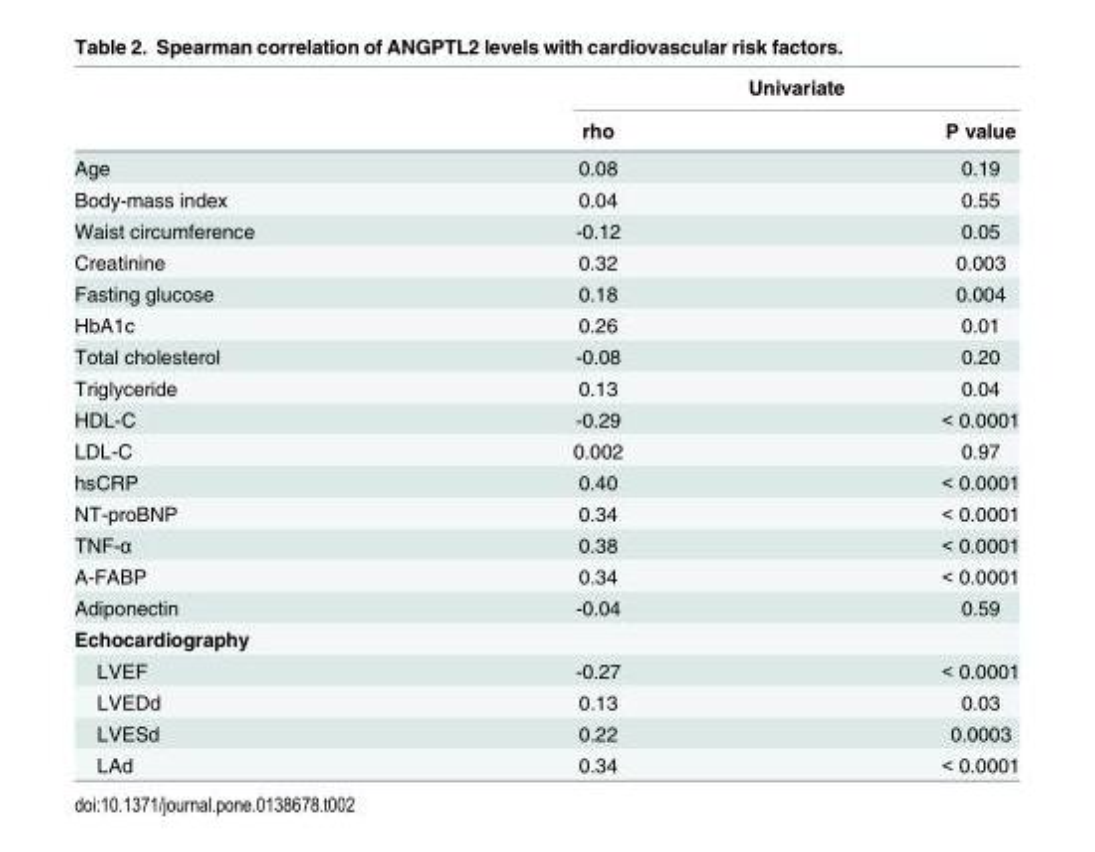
<table><thead><tr><td rowspan="2"></td><td colspan="2">Univariate</td></tr><tr><td>rho</td><td>P value</td></tr></thead><tbody><tr><td>Age</td><td>0.08</td><td>0.19</td></tr><tr><td>Body-mass index</td><td>0.04</td><td>0.55</td></tr><tr><td>Waist circumference</td><td>-0.12</td><td>0.05</td></tr><tr><td>Creatinine</td><td>0.32</td><td>0.003</td></tr><tr><td>Fasting glucose</td><td>0.18</td><td>0.004</td></tr><tr><td>HbA1c</td><td>0.26</td><td>0.01</td></tr><tr><td>Total cholesterol</td><td>-0.08</td><td>0.20</td></tr><tr><td>Triglyceride</td><td>0.13</td><td>0.04</td></tr><tr><td>HDL-C</td><td>-0.29</td><td>&lt; 0.0001</td></tr><tr><td>LDL-C</td><td>0.002</td><td>0.97</td></tr><tr><td>hsCRP</td><td>0.40</td><td>&lt; 0.0001</td></tr><tr><td>NT-proBNP</td><td>0.34</td><td>&lt; 0.0001</td></tr><tr><td>TNF-α</td><td>0.38</td><td>&lt; 0.0001</td></tr><tr><td>A-FABP</td><td>0.34</td><td>&lt; 0.0001</td></tr><tr><td>Adiponectin</td><td>-0.04</td><td>0.59</td></tr><tr><td colspan="3">Echocardiography</td></tr><tr><td>LVEF</td><td>-0.27</td><td>&lt; 0.0001</td></tr><tr><td>LVEDd</td><td>0.13</td><td>0.03</td></tr><tr><td>LVESd</td><td>0.22</td><td>0.0003</td></tr><tr><td>LAd</td><td>0.34</td><td>&lt; 0.0001</td></tr></tbody></table>